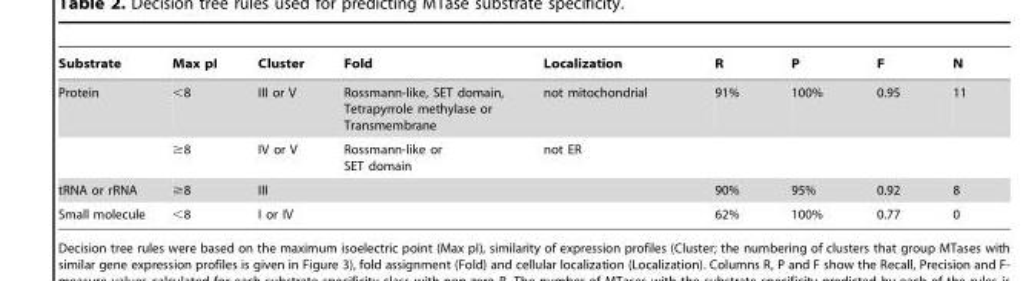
<table><thead><tr><td>Substrate</td><td>Max pI</td><td>Cluster</td><td>Fold</td><td>Localization</td><td>R</td><td>P</td><td>F</td><td>N</td></tr></thead><tbody><tr><td rowspan="2">Protein</td><td>&lt;8</td><td>III or V</td><td>Rossmann-like, SET domain, Tetrapyrrole methylase or Transmembrane</td><td>not mitochondrial</td><td>91%</td><td>100%</td><td>0.95</td><td>11</td></tr><tr><td>≥8</td><td>IV or V</td><td>Rossmann-like or SET domain</td><td>not ER</td><td></td><td></td><td></td><td></td></tr><tr><td>tRNA or rRNA</td><td>≥8</td><td>III</td><td></td><td></td><td>90%</td><td>95%</td><td>0.92</td><td>8</td></tr><tr><td>Small molecule</td><td>&lt;8</td><td>I or IV</td><td></td><td></td><td>62%</td><td>100%</td><td>0.77</td><td>0</td></tr></tbody></table>